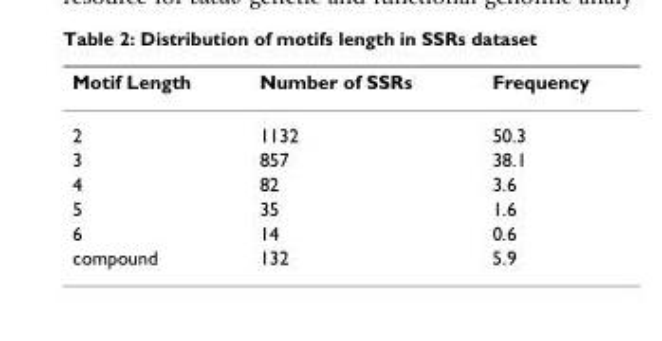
<table><thead><tr><td>Motif Length</td><td>Number of SSRs</td><td>Frequency</td></tr></thead><tbody><tr><td>2</td><td>1132</td><td>50.3</td></tr><tr><td>3</td><td>857</td><td>38.1</td></tr><tr><td>4</td><td>82</td><td>3.6</td></tr><tr><td>5</td><td>35</td><td>1.6</td></tr><tr><td>6</td><td>14</td><td>0.6</td></tr><tr><td>compound</td><td>132</td><td>5.9</td></tr></tbody></table>